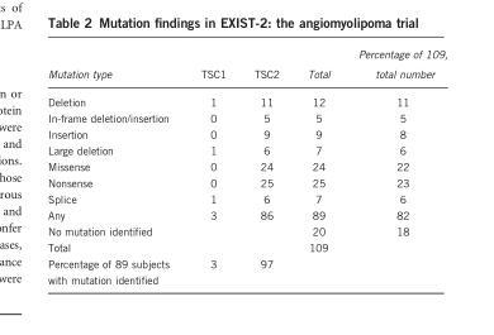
<table><thead><tr><td>Mutation type</td><td>TSC1</td><td>TSC2</td><td>Total</td><td>Percentage of 109, total number</td></tr></thead><tbody><tr><td>Deletion</td><td>1</td><td>11</td><td>12</td><td>11</td></tr><tr><td>In-frame deletion/insertion</td><td>0</td><td>5</td><td>5</td><td>5</td></tr><tr><td>Insertion</td><td>0</td><td>9</td><td>9</td><td>8</td></tr><tr><td>Large deletion</td><td>1</td><td>6</td><td>7</td><td>6</td></tr><tr><td>Missense</td><td>0</td><td>24</td><td>24</td><td>22</td></tr><tr><td>Nonsense</td><td>0</td><td>25</td><td>25</td><td>23</td></tr><tr><td>Splice</td><td>1</td><td>6</td><td>7</td><td>6</td></tr><tr><td>Any</td><td>3</td><td>86</td><td>89</td><td>82</td></tr><tr><td>No mutation identified</td><td></td><td></td><td>20</td><td>18</td></tr><tr><td>Total</td><td></td><td></td><td>109</td><td></td></tr><tr><td>Percentage of 89 subjects with mutation identified</td><td>3</td><td>97</td><td></td><td></td></tr></tbody></table>